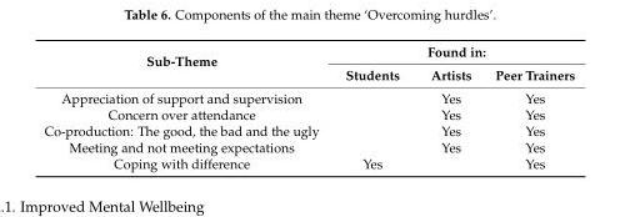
<table><thead><tr><td rowspan="2">Sub-Theme</td><td colspan="3">Found in:</td></tr><tr><td>Students</td><td>Artists</td><td>Peer Trainers</td></tr></thead><tbody><tr><td>Appreciation of support and supervision</td><td></td><td>Yes</td><td>Yes</td></tr><tr><td>Concern over attendance</td><td></td><td>Yes</td><td>Yes</td></tr><tr><td>Co-production: The good, the bad and the ugly</td><td></td><td>Yes</td><td>Yes</td></tr><tr><td>Meeting and not meeting expectations</td><td></td><td>Yes</td><td>Yes</td></tr><tr><td>Coping with difference</td><td>Yes</td><td></td><td>Yes</td></tr></tbody></table>